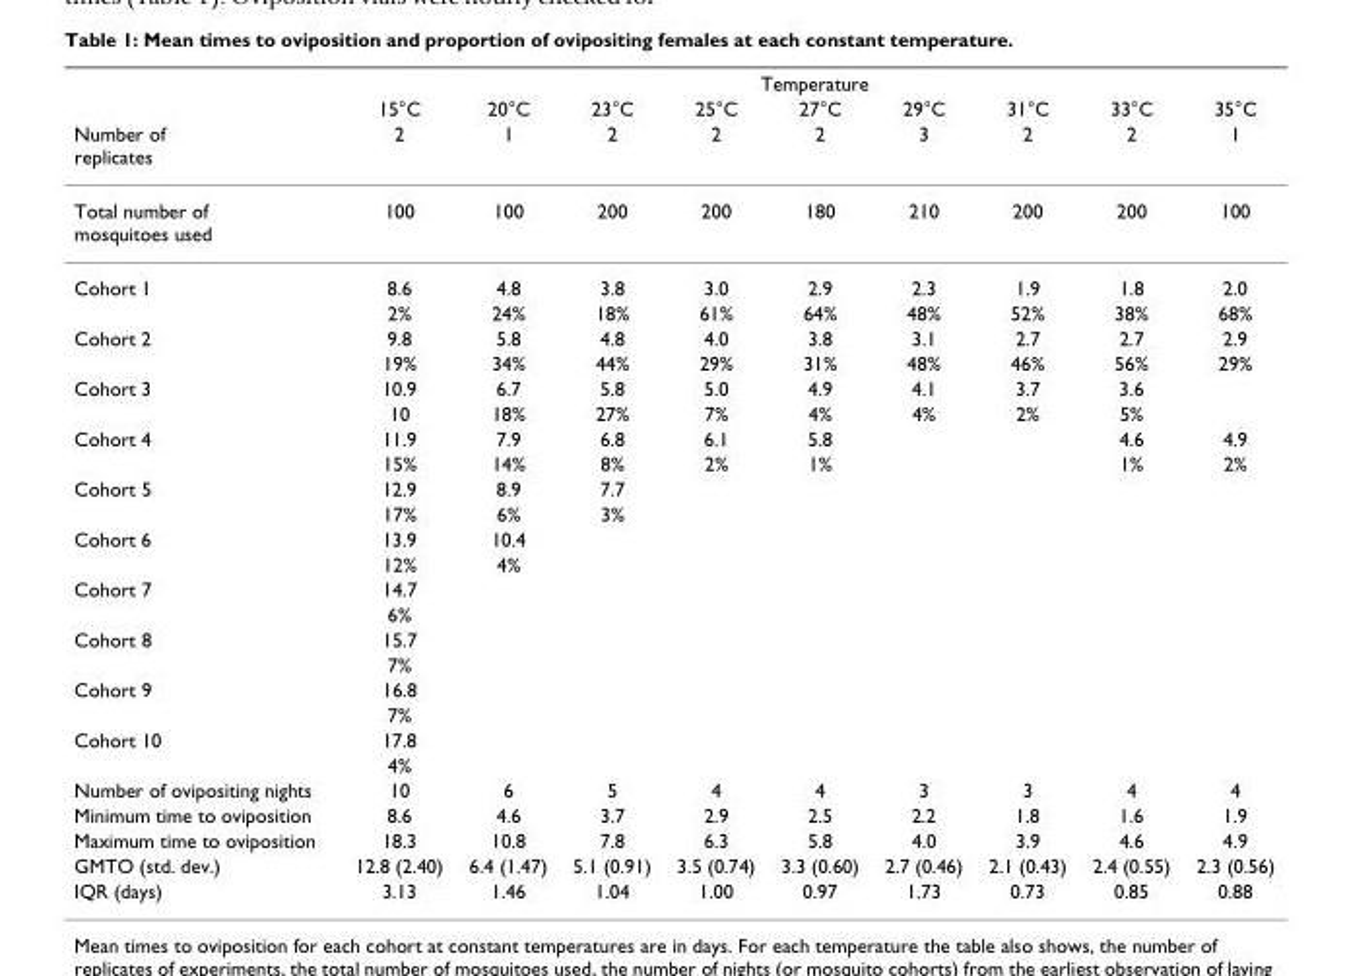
<table><thead><tr><td rowspan="3">Number of replicates</td><td colspan="9">Temperature</td></tr><tr><td rowspan="2">15°C 2</td><td rowspan="2">20°C 1</td><td rowspan="2">23°C 2</td><td rowspan="2">25°C 2</td><td rowspan="2">27°C 2</td><td rowspan="2">29°C 3</td><td rowspan="2">31°C 2</td><td rowspan="2">33°C 2</td><td rowspan="2">35°C 1</td></tr><tr></tr></thead><tbody><tr><td>Total number of mosquitoes used</td><td>100</td><td>100</td><td>200</td><td>200</td><td>180</td><td>210</td><td>200</td><td>200</td><td>100</td></tr><tr><td rowspan="2">Cohort 1</td><td>8.6</td><td>4.8</td><td>3.8</td><td>3.0</td><td>2.9</td><td>2.3</td><td>1.9</td><td>1.8</td><td>2.0</td></tr><tr><td>2%</td><td>24%</td><td>18%</td><td>61%</td><td>64%</td><td>48%</td><td>52%</td><td>38%</td><td>68%</td></tr><tr><td rowspan="2">Cohort 2</td><td>9.8</td><td>5.8</td><td>4.8</td><td>4.0</td><td>3.8</td><td>3.1</td><td>2.7</td><td>2.7</td><td>2.9</td></tr><tr><td>19%</td><td>34%</td><td>44%</td><td>29%</td><td>31%</td><td>48%</td><td>46%</td><td>56%</td><td>29%</td></tr><tr><td rowspan="2">Cohort 3</td><td>10.9</td><td>6.7</td><td>5.8</td><td>5.0</td><td>4.9</td><td>4.1</td><td>3.7</td><td>3.6</td><td></td></tr><tr><td>10</td><td>18%</td><td>27%</td><td>7%</td><td>4%</td><td>4%</td><td>2%</td><td>5%</td><td></td></tr><tr><td rowspan="2">Cohort 4</td><td>11.9</td><td>7.9</td><td>6.8</td><td>6.1</td><td>5.8</td><td></td><td></td><td>4.6</td><td>4.9</td></tr><tr><td>15%</td><td>14%</td><td>8%</td><td>2%</td><td>1%</td><td></td><td></td><td>1%</td><td>2%</td></tr><tr><td rowspan="2">Cohort 5</td><td>12.9</td><td>8.9</td><td>7.7</td><td></td><td></td><td></td><td></td><td></td><td></td></tr><tr><td>17%</td><td>6%</td><td>3%</td><td></td><td></td><td></td><td></td><td></td><td></td></tr><tr><td rowspan="2">Cohort 6</td><td>13.9</td><td>10.4</td><td></td><td></td><td></td><td></td><td></td><td></td><td></td></tr><tr><td>12%</td><td>4%</td><td></td><td></td><td></td><td></td><td></td><td></td><td></td></tr><tr><td rowspan="2">Cohort 7</td><td>14.7</td><td></td><td></td><td></td><td></td><td></td><td></td><td></td><td></td></tr><tr><td>6%</td><td></td><td></td><td></td><td></td><td></td><td></td><td></td><td></td></tr><tr><td rowspan="2">Cohort 8</td><td>15.7</td><td></td><td></td><td></td><td></td><td></td><td></td><td></td><td></td></tr><tr><td>7%</td><td></td><td></td><td></td><td></td><td></td><td></td><td></td><td></td></tr><tr><td rowspan="2">Cohort 9</td><td>16.8</td><td></td><td></td><td></td><td></td><td></td><td></td><td></td><td></td></tr><tr><td>7%</td><td></td><td></td><td></td><td></td><td></td><td></td><td></td><td></td></tr><tr><td rowspan="2">Cohort 10</td><td>17.8</td><td></td><td></td><td></td><td></td><td></td><td></td><td></td><td></td></tr><tr><td>4%</td><td></td><td></td><td></td><td></td><td></td><td></td><td></td><td></td></tr><tr><td>Number of ovipositing nights</td><td>10</td><td>6</td><td>5</td><td>4</td><td>4</td><td>3</td><td>3</td><td>4</td><td>4</td></tr><tr><td>Minimum time to oviposition</td><td>8.6</td><td>4.6</td><td>3.7</td><td>2.9</td><td>2.5</td><td>2.2</td><td>1.8</td><td>1.6</td><td>1.9</td></tr><tr><td>Maximum time to oviposition</td><td>18.3</td><td>10.8</td><td>7.8</td><td>6.3</td><td>5.8</td><td>4.0</td><td>3.9</td><td>4.6</td><td>4.9</td></tr><tr><td>GMTO (std. dev.)</td><td>12.8 (2.40)</td><td>6.4 (1.47)</td><td>5.1 (0.91)</td><td>3.5 (0.74)</td><td>3.3 (0.60)</td><td>2.7 (0.46)</td><td>2.1 (0.43)</td><td>2.4 (0.55)</td><td>2.3 (0.56)</td></tr><tr><td>IQR (days)</td><td>3.13</td><td>1.46</td><td>1.04</td><td>1.00</td><td>0.97</td><td>1.73</td><td>0.73</td><td>0.85</td><td>0.88</td></tr></tbody></table>